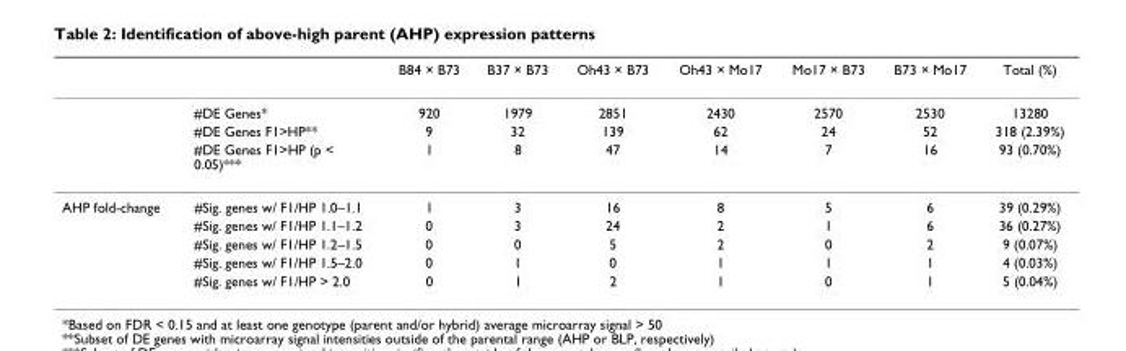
<table><thead><tr><td></td><td></td><td>B84 × B73</td><td>B37 × B73</td><td>Oh43 × B73</td><td>Oh43 × Mo17</td><td>Mo17 × B73</td><td>B73 × Mo17</td><td>Total (%)</td></tr></thead><tbody><tr><td></td><td>#DE Genes*</td><td>920</td><td>1979</td><td>2851</td><td>2430</td><td>2570</td><td>2530</td><td>13280</td></tr><tr><td></td><td>#DE Genes F1&gt;HP**</td><td>9</td><td>32</td><td>139</td><td>62</td><td>24</td><td>52</td><td>318 (2.39%)</td></tr><tr><td></td><td>#DE Genes F1&gt;HP (p &lt; 0.05)***</td><td>1</td><td>8</td><td>47</td><td>14</td><td>7</td><td>16</td><td>93 (0.70%)</td></tr><tr><td rowspan="5">AHP fold-change</td><td>#Sig. genes w/ F1/HP 1.0–1.1</td><td>1</td><td>3</td><td>16</td><td>8</td><td>5</td><td>6</td><td>39 (0.29%)</td></tr><tr><td>#Sig. genes w/ F1/HP 1.1–1.2</td><td>0</td><td>3</td><td>24</td><td>2</td><td>1</td><td>6</td><td>36 (0.27%)</td></tr><tr><td>#Sig. genes w/ F1/HP 1.2–1.5</td><td>0</td><td>0</td><td>5</td><td>2</td><td>0</td><td>2</td><td>9 (0.07%)</td></tr><tr><td>#Sig. genes w/ F1/HP 1.5–2.0</td><td>0</td><td>1</td><td>0</td><td>1</td><td>1</td><td>1</td><td>4 (0.03%)</td></tr><tr><td>#Sig. genes w/ F1/HP &gt; 2.0</td><td>0</td><td>1</td><td>2</td><td>1</td><td>0</td><td>1</td><td>5 (0.04%)</td></tr></tbody></table>